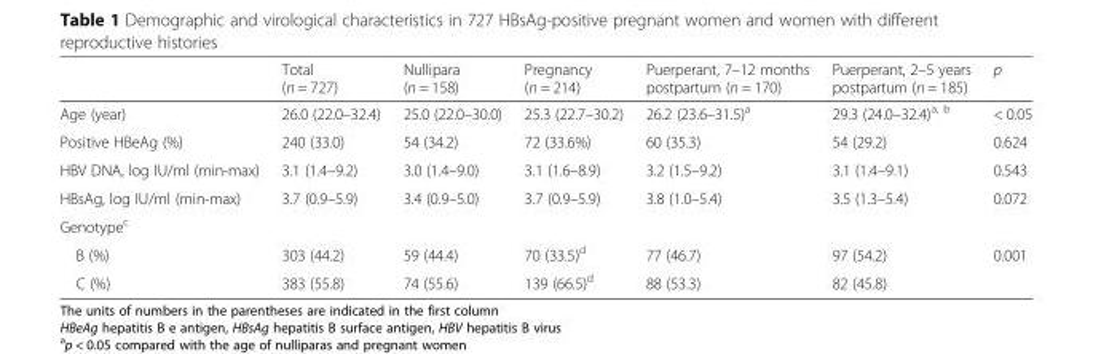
<table><thead><tr><td></td><td>Total (n = 727)</td><td>Nullipara (n = 158)</td><td>Pregnancy (n = 214)</td><td>Puerperant, 7–12 months postpartum (n = 170)</td><td>Puerperant, 2–5 years postpartum (n = 185)</td><td>p</td></tr></thead><tbody><tr><td>Age (year)</td><td>26.0 (22.0–32.4)</td><td>25.0 (22.0–30.0)</td><td>25.3 (22.7–30.2)</td><td>26.2 (23.6–31.5)<sup>a</sup></td><td>29.3 (24.0–32.4)<sup>a, b</sup></td><td>&lt; 0.05</td></tr><tr><td>Positive HBeAg (%)</td><td>240 (33.0)</td><td>54 (34.2)</td><td>72 (33.6%)</td><td>60 (35.3)</td><td>54 (29.2)</td><td>0.624</td></tr><tr><td>HBV DNA, log IU/ml (min-max)</td><td>3.1 (1.4–9.2)</td><td>3.0 (1.4–9.0)</td><td>3.1 (1.6–8.9)</td><td>3.2 (1.5–9.2)</td><td>3.1 (1.4–9.1)</td><td>0.543</td></tr><tr><td>HBsAg, log IU/ml (min-max)</td><td>3.7 (0.9–5.9)</td><td>3.4 (0.9–5.0)</td><td>3.7 (0.9–5.9)</td><td>3.8 (1.0–5.4)</td><td>3.5 (1.3–5.4)</td><td>0.072</td></tr><tr><td colspan="7">Genotype<sup>c</sup></td></tr><tr><td>B (%)</td><td>303 (44.2)</td><td>59 (44.4)</td><td>70 (33.5)<sup>d</sup></td><td>77 (46.7)</td><td>97 (54.2)</td><td rowspan="2">0.001</td></tr><tr><td>C (%)</td><td>383 (55.8)</td><td>74 (55.6)</td><td>139 (66.5)<sup>d</sup></td><td>88 (53.3)</td><td>82 (45.8)</td></tr></tbody></table>